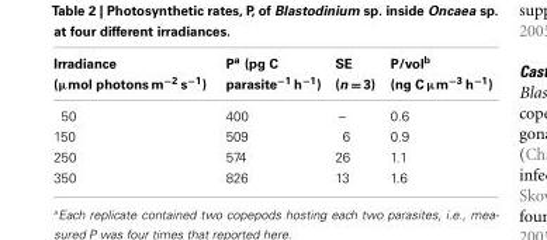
<table><thead><tr><td>Irradiance (µmol photons m<sup>−2</sup> s<sup>−1</sup>)</td><td>P<sup>a</sup> (pg C parasite<sup>−1</sup> h<sup>−1</sup>)</td><td>SE (n = 3)</td><td>P/vol<sup>b</sup> (ng C µm<sup>−3</sup> h<sup>−1</sup>)</td></tr></thead><tbody><tr><td>50</td><td>400</td><td>–</td><td>0.6</td></tr><tr><td>150</td><td>509</td><td>6</td><td>0.9</td></tr><tr><td>250</td><td>574</td><td>26</td><td>1.1</td></tr><tr><td>350</td><td>826</td><td>13</td><td>1.6</td></tr></tbody></table>